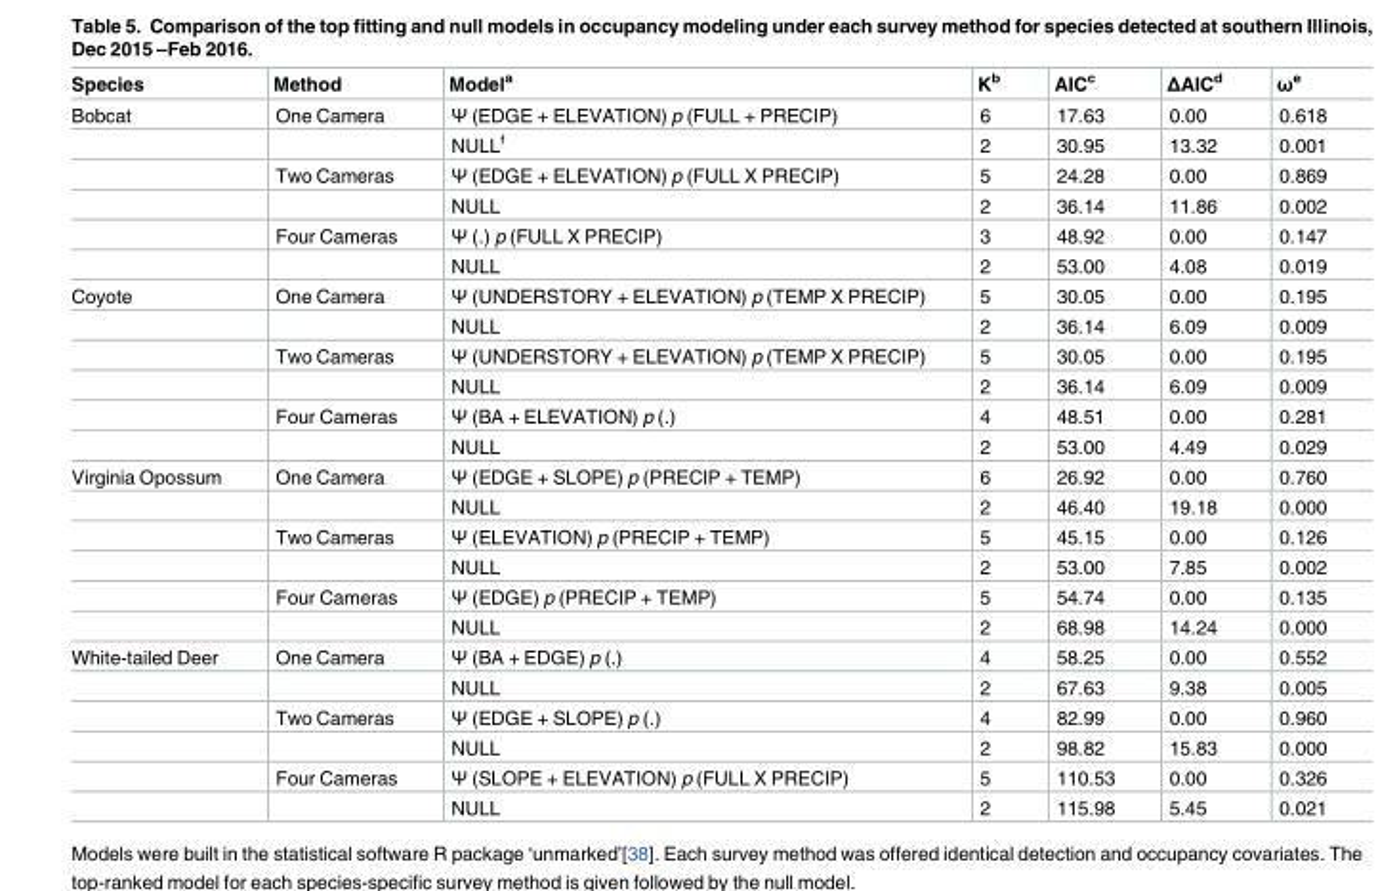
<table><thead><tr><td>Species</td><td>Method</td><td>Model<sup>a</sup></td><td>K<sup>b</sup></td><td>AIC<sup>c</sup></td><td>ΔAIC<sup>d</sup></td><td>ω<sup>e</sup></td></tr></thead><tbody><tr><td rowspan="6">Bobcat</td><td>One Camera</td><td>Ψ (EDGE + ELEVATION) p (FULL + PRECIP)</td><td>6</td><td>17.63</td><td>0.00</td><td>0.618</td></tr><tr><td></td><td>NULL<sup>f</sup></td><td>2</td><td>30.95</td><td>13.32</td><td>0.001</td></tr><tr><td>Two Cameras</td><td>Ψ (EDGE + ELEVATION) p (FULL X PRECIP)</td><td>5</td><td>24.28</td><td>0.00</td><td>0.869</td></tr><tr><td></td><td>NULL</td><td>2</td><td>36.14</td><td>11.86</td><td>0.002</td></tr><tr><td>Four Cameras</td><td>Ψ (.) p (FULL X PRECIP)</td><td>3</td><td>48.92</td><td>0.00</td><td>0.147</td></tr><tr><td></td><td>NULL</td><td>2</td><td>53.00</td><td>4.08</td><td>0.019</td></tr><tr><td rowspan="6">Coyote</td><td>One Camera</td><td>Ψ (UNDERSTORY + ELEVATION) p (TEMP X PRECIP)</td><td>5</td><td>30.05</td><td>0.00</td><td>0.195</td></tr><tr><td></td><td>NULL</td><td>2</td><td>36.14</td><td>6.09</td><td>0.009</td></tr><tr><td>Two Cameras</td><td>Ψ (UNDERSTORY + ELEVATION) p (TEMP X PRECIP)</td><td>5</td><td>30.05</td><td>0.00</td><td>0.195</td></tr><tr><td></td><td>NULL</td><td>2</td><td>36.14</td><td>6.09</td><td>0.009</td></tr><tr><td>Four Cameras</td><td>Ψ (BA + ELEVATION) p (.)</td><td>4</td><td>48.51</td><td>0.00</td><td>0.281</td></tr><tr><td></td><td>NULL</td><td>2</td><td>53.00</td><td>4.49</td><td>0.029</td></tr><tr><td rowspan="6">Virginia Opossum</td><td>One Camera</td><td>Ψ (EDGE + SLOPE) p (PRECIP + TEMP)</td><td>6</td><td>26.92</td><td>0.00</td><td>0.760</td></tr><tr><td></td><td>NULL</td><td>2</td><td>46.40</td><td>19.18</td><td>0.000</td></tr><tr><td>Two Cameras</td><td>Ψ (ELEVATION) p (PRECIP + TEMP)</td><td>5</td><td>45.15</td><td>0.00</td><td>0.126</td></tr><tr><td></td><td>NULL</td><td>2</td><td>53.00</td><td>7.85</td><td>0.002</td></tr><tr><td>Four Cameras</td><td>Ψ (EDGE) p (PRECIP + TEMP)</td><td>5</td><td>54.74</td><td>0.00</td><td>0.135</td></tr><tr><td></td><td>NULL</td><td>2</td><td>68.98</td><td>14.24</td><td>0.000</td></tr><tr><td rowspan="6">White-tailed Deer</td><td>One Camera</td><td>Ψ (BA + EDGE) p (.)</td><td>4</td><td>58.25</td><td>0.00</td><td>0.552</td></tr><tr><td></td><td>NULL</td><td>2</td><td>67.63</td><td>9.38</td><td>0.005</td></tr><tr><td>Two Cameras</td><td>Ψ (EDGE + SLOPE) p (.)</td><td>4</td><td>82.99</td><td>0.00</td><td>0.960</td></tr><tr><td></td><td>NULL</td><td>2</td><td>98.82</td><td>15.83</td><td>0.000</td></tr><tr><td>Four Cameras</td><td>Ψ (SLOPE + ELEVATION) p (FULL X PRECIP)</td><td>5</td><td>110.53</td><td>0.00</td><td>0.326</td></tr><tr><td></td><td>NULL</td><td>2</td><td>115.98</td><td>5.45</td><td>0.021</td></tr></tbody></table>